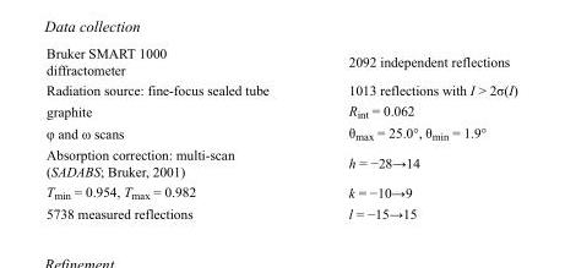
<table><tbody><tr><td>Bruker SMART 1000 diffractometer</td><td>2092 independent reflections</td></tr><tr><td>Radiation source: fine-focus sealed tube</td><td>1013 reflections with I &gt; 2σ(I)</td></tr><tr><td>graphite</td><td>R<sub>int</sub> = 0.062</td></tr><tr><td>φ and ω scans</td><td>θ<sub>max</sub> = 25.0°, θ<sub>min</sub> = 1.9°</td></tr><tr><td>Absorption correction: multi-scan (SADABS; Bruker, 2001)</td><td>h = −28→14</td></tr><tr><td>T<sub>min</sub> = 0.954, T<sub>max</sub> = 0.982</td><td>k = −10→9</td></tr><tr><td>5738 measured reflections</td><td>l = −15→15</td></tr></tbody></table>